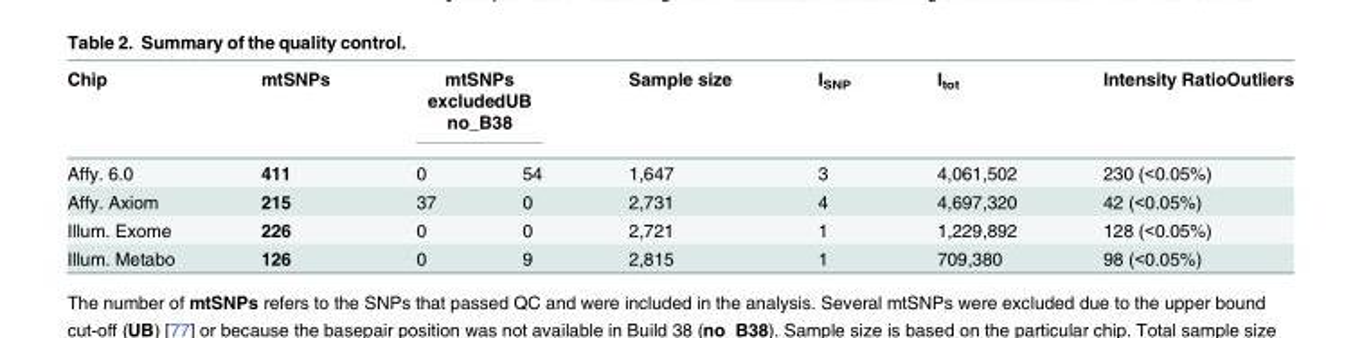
<table><thead><tr><td rowspan="2">Chip Affy. 6.0</td><td rowspan="2">mtSNPs 411</td><td colspan="2">mtSNPs excludedUB no_B38</td><td rowspan="2">Sample size 1,647</td><td rowspan="2">I<sub>SNP</sub> 3</td><td rowspan="2">I<sub>tot</sub> 4,061,502</td><td rowspan="2">Intensity RatioOutliers 230 (&lt;0.05%)</td></tr><tr><td>0</td><td>54</td></tr></thead><tbody><tr><td>Affy. Axiom</td><td>215</td><td>37</td><td>0</td><td>2,731</td><td>4</td><td>4,697,320</td><td>42 (&lt;0.05%)</td></tr><tr><td>Illum. Exome</td><td>226</td><td>0</td><td>0</td><td>2,721</td><td>1</td><td>1,229,892</td><td>128 (&lt;0.05%)</td></tr><tr><td>Illum. Metabo</td><td>126</td><td>0</td><td>9</td><td>2,815</td><td>1</td><td>709,380</td><td>98 (&lt;0.05%)</td></tr></tbody></table>